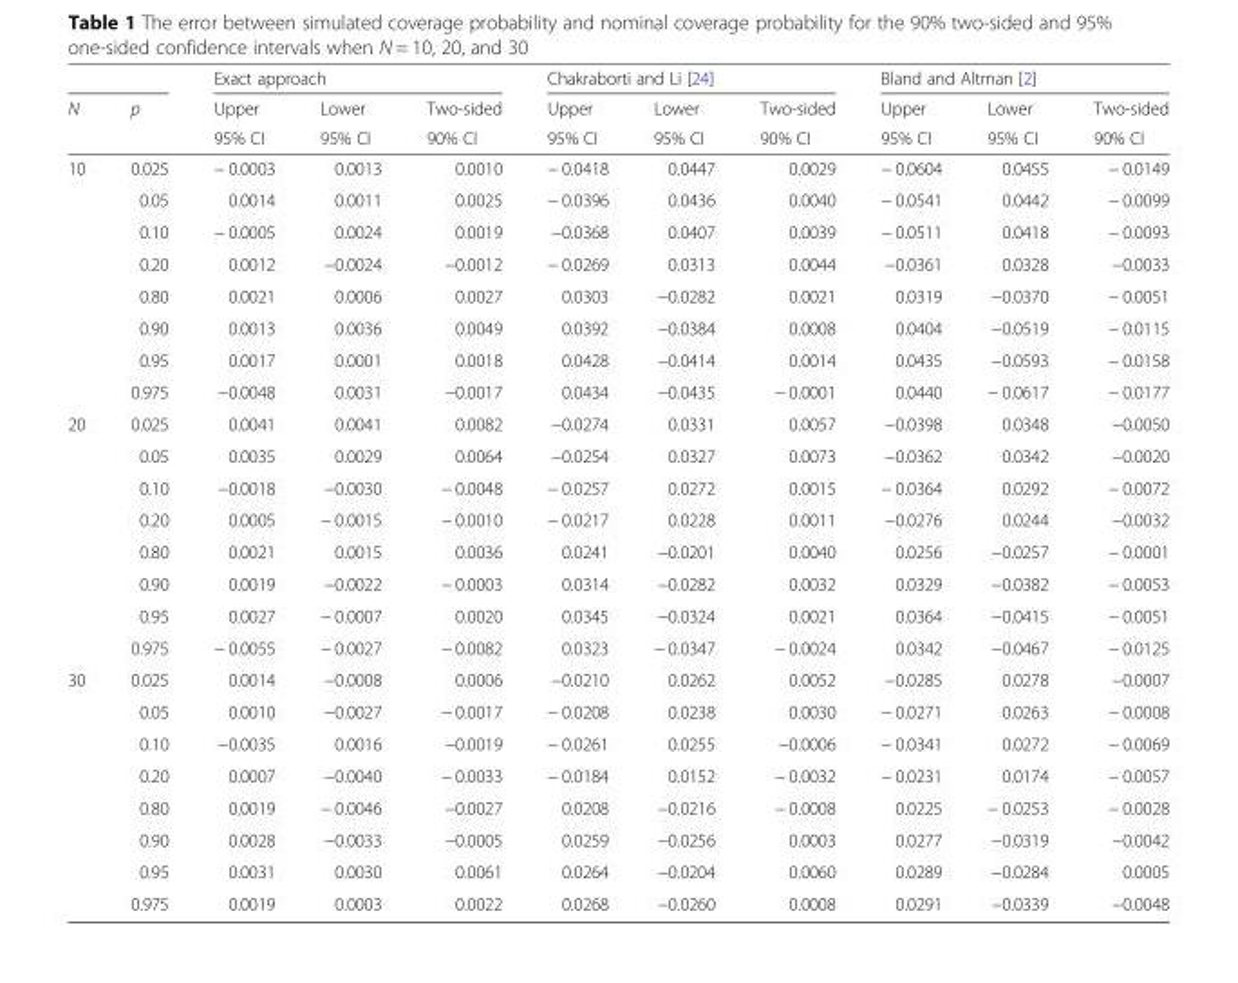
<table><thead><tr><td rowspan="3">N</td><td rowspan="3">p</td><td colspan="3">Exact approach</td><td colspan="3">Chakraborti and Li [24]</td><td colspan="3">Bland and Altman [2]</td></tr><tr><td rowspan="2">Upper 95% CI</td><td rowspan="2">Lower 95% CI</td><td rowspan="2">Two-sided 90% CI</td><td rowspan="2">Upper 95% CI</td><td rowspan="2">Lower 95% CI</td><td rowspan="2">Two-sided 90% CI</td><td rowspan="2">Upper 95% CI</td><td rowspan="2">Lower 95% CI</td><td rowspan="2">Two-sided 90% CI</td></tr><tr></tr></thead><tbody><tr><td rowspan="8">10</td><td>0.025</td><td>− 0.0003</td><td>0.0013</td><td>0.0010</td><td>− 0.0418</td><td>0.0447</td><td>0.0029</td><td>− 0.0604</td><td>0.0455</td><td>− 0.0149</td></tr><tr><td>0.05</td><td>0.0014</td><td>0.0011</td><td>0.0025</td><td>− 0.0396</td><td>0.0436</td><td>0.0040</td><td>− 0.0541</td><td>0.0442</td><td>− 0.0099</td></tr><tr><td>0.10</td><td>− 0.0005</td><td>0.0024</td><td>0.0019</td><td>−0.0368</td><td>0.0407</td><td>0.0039</td><td>− 0.0511</td><td>0.0418</td><td>− 0.0093</td></tr><tr><td>0.20</td><td>0.0012</td><td>−0.0024</td><td>−0.0012</td><td>− 0.0269</td><td>0.0313</td><td>0.0044</td><td>−0.0361</td><td>0.0328</td><td>−0.0033</td></tr><tr><td>0.80</td><td>0.0021</td><td>0.0006</td><td>0.0027</td><td>0.0303</td><td>−0.0282</td><td>0.0021</td><td>0.0319</td><td>−0.0370</td><td>− 0.0051</td></tr><tr><td>0.90</td><td>0.0013</td><td>0.0036</td><td>0.0049</td><td>0.0392</td><td>−0.0384</td><td>0.0008</td><td>0.0404</td><td>−0.0519</td><td>− 0.0115</td></tr><tr><td>0.95</td><td>0.0017</td><td>0.0001</td><td>0.0018</td><td>0.0428</td><td>−0.0414</td><td>0.0014</td><td>0.0435</td><td>−0.0593</td><td>− 0.0158</td></tr><tr><td>0.975</td><td>−0.0048</td><td>0.0031</td><td>−0.0017</td><td>0.0434</td><td>−0.0435</td><td>− 0.0001</td><td>0.0440</td><td>− 0.0617</td><td>− 0.0177</td></tr><tr><td rowspan="8">20</td><td>0.025</td><td>0.0041</td><td>0.0041</td><td>0.0082</td><td>−0.0274</td><td>0.0331</td><td>0.0057</td><td>−0.0398</td><td>0.0348</td><td>−0.0050</td></tr><tr><td>0.05</td><td>0.0035</td><td>0.0029</td><td>0.0064</td><td>−0.0254</td><td>0.0327</td><td>0.0073</td><td>−0.0362</td><td>0.0342</td><td>−0.0020</td></tr><tr><td>0.10</td><td>−0.0018</td><td>−0.0030</td><td>− 0.0048</td><td>− 0.0257</td><td>0.0272</td><td>0.0015</td><td>− 0.0364</td><td>0.0292</td><td>− 0.0072</td></tr><tr><td>0.20</td><td>0.0005</td><td>− 0.0015</td><td>− 0.0010</td><td>− 0.0217</td><td>0.0228</td><td>0.0011</td><td>−0.0276</td><td>0.0244</td><td>−0.0032</td></tr><tr><td>0.80</td><td>0.0021</td><td>0.0015</td><td>0.0036</td><td>0.0241</td><td>−0.0201</td><td>0.0040</td><td>0.0256</td><td>−0.0257</td><td>− 0.0001</td></tr><tr><td>0.90</td><td>0.0019</td><td>−0.0022</td><td>− 0.0003</td><td>0.0314</td><td>−0.0282</td><td>0.0032</td><td>0.0329</td><td>−0.0382</td><td>− 0.0053</td></tr><tr><td>0.95</td><td>0.0027</td><td>− 0.0007</td><td>0.0020</td><td>0.0345</td><td>−0.0324</td><td>0.0021</td><td>0.0364</td><td>−0.0415</td><td>− 0.0051</td></tr><tr><td>0.975</td><td>− 0.0055</td><td>− 0.0027</td><td>− 0.0082</td><td>0.0323</td><td>− 0.0347</td><td>− 0.0024</td><td>0.0342</td><td>−0.0467</td><td>− 0.0125</td></tr><tr><td rowspan="8">30</td><td>0.025</td><td>0.0014</td><td>−0.0008</td><td>0.0006</td><td>−0.0210</td><td>0.0262</td><td>0.0052</td><td>−0.0285</td><td>0.0278</td><td>−0.0007</td></tr><tr><td>0.05</td><td>0.0010</td><td>−0.0027</td><td>− 0.0017</td><td>− 0.0208</td><td>0.0238</td><td>0.0030</td><td>− 0.0271</td><td>0.0263</td><td>− 0.0008</td></tr><tr><td>0.10</td><td>−0.0035</td><td>0.0016</td><td>−0.0019</td><td>− 0.0261</td><td>0.0255</td><td>−0.0006</td><td>− 0.0341</td><td>0.0272</td><td>− 0.0069</td></tr><tr><td>0.20</td><td>0.0007</td><td>−0.0040</td><td>− 0.0033</td><td>− 0.0184</td><td>0.0152</td><td>− 0.0032</td><td>− 0.0231</td><td>0.0174</td><td>− 0.0057</td></tr><tr><td>0.80</td><td>0.0019</td><td>− 0.0046</td><td>−0.0027</td><td>0.0208</td><td>−0.0216</td><td>− 0.0008</td><td>0.0225</td><td>− 0.0253</td><td>− 0.0028</td></tr><tr><td>0.90</td><td>0.0028</td><td>−0.0033</td><td>−0.0005</td><td>0.0259</td><td>−0.0256</td><td>0.0003</td><td>0.0277</td><td>−0.0319</td><td>−0.0042</td></tr><tr><td>0.95</td><td>0.0031</td><td>0.0030</td><td>0.0061</td><td>0.0264</td><td>−0.0204</td><td>0.0060</td><td>0.0289</td><td>−0.0284</td><td>0.0005</td></tr><tr><td>0.975</td><td>0.0019</td><td>0.0003</td><td>0.0022</td><td>0.0268</td><td>−0.0260</td><td>0.0008</td><td>0.0291</td><td>−0.0339</td><td>−0.0048</td></tr></tbody></table>